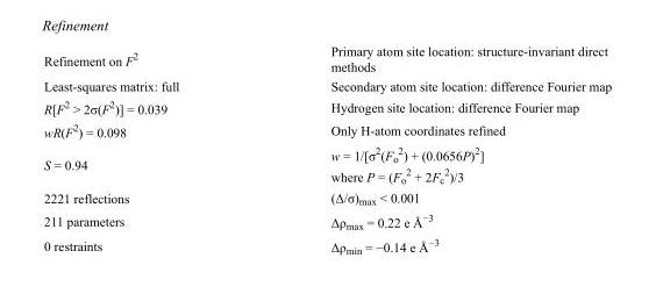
<table><tbody><tr><td>Refinement on F<sup>2</sup></td><td>Primary atom site location: structure-invariant direct methods</td></tr><tr><td>Least-squares matrix: full</td><td>Secondary atom site location: difference Fourier map</td></tr><tr><td>R[F<sup>2</sup> &gt; 2σ(F<sup>2</sup>)] = 0.039</td><td>Hydrogen site location: difference Fourier map</td></tr><tr><td>wR(F<sup>2</sup>) = 0.098</td><td>Only H-atom coordinates refined</td></tr><tr><td>S = 0.94</td><td>w = 1/[σ<sup>2</sup>(F<sub>o</sub> <sup>2</sup>) + (0.0656P)<sup>2</sup>] where P = (F<sub>o</sub> <sup>2</sup> + 2F<sub>c</sub> <sup>2</sup>)/3</td></tr><tr><td>2221 reflections</td><td>(Δ/σ)<sub>max</sub> &lt; 0.001</td></tr><tr><td>211 parameters</td><td>Δρ<sub>max</sub> = 0.22 e Å<sup>−3</sup></td></tr><tr><td>0 restraints</td><td>Δρ<sub>min</sub> = −0.14 e Å<sup>−3</sup></td></tr></tbody></table>